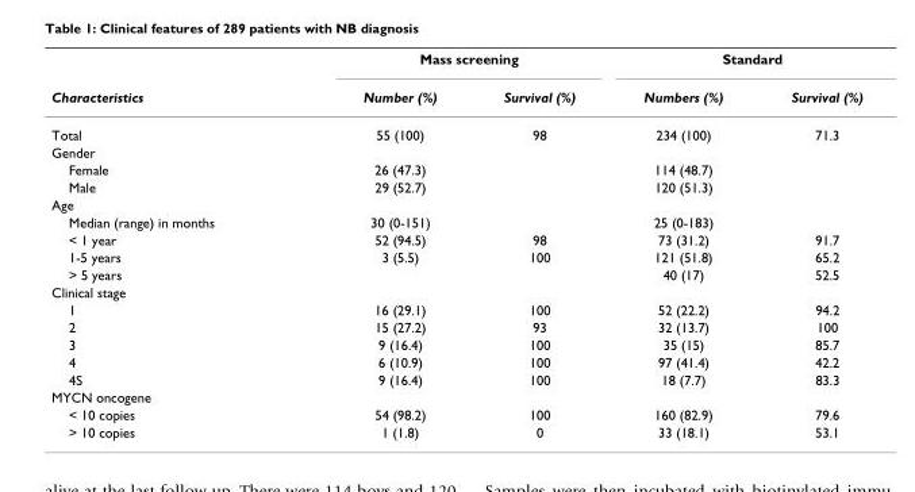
<table><thead><tr><td rowspan="2">Characteristics</td><td colspan="2">Mass screening</td><td colspan="2">Standard</td></tr><tr><td>Number (%)</td><td>Survival (%)</td><td>Numbers (%)</td><td>Survival (%)</td></tr></thead><tbody><tr><td>Total</td><td>55 (100)</td><td>98</td><td>234 (100)</td><td>71.3</td></tr><tr><td colspan="5">Gender</td></tr><tr><td>Female</td><td>26 (47.3)</td><td></td><td>114 (48.7)</td><td></td></tr><tr><td>Male</td><td>29 (52.7)</td><td></td><td>120 (51.3)</td><td></td></tr><tr><td colspan="5">Age</td></tr><tr><td>Median (range) in months</td><td>30 (0-151)</td><td></td><td>25 (0-183)</td><td></td></tr><tr><td>&lt; 1 year</td><td>52 (94.5)</td><td>98</td><td>73 (31.2)</td><td>91.7</td></tr><tr><td>1-5 years</td><td>3 (5.5)</td><td>100</td><td>121 (51.8)</td><td>65.2</td></tr><tr><td>&gt; 5 years</td><td></td><td></td><td>40 (17)</td><td>52.5</td></tr><tr><td colspan="5">Clinical stage</td></tr><tr><td>1</td><td>16 (29.1)</td><td>100</td><td>52 (22.2)</td><td>94.2</td></tr><tr><td>2</td><td>15 (27.2)</td><td>93</td><td>32 (13.7)</td><td>100</td></tr><tr><td>3</td><td>9 (16.4)</td><td>100</td><td>35 (15)</td><td>85.7</td></tr><tr><td>4</td><td>6 (10.9)</td><td>100</td><td>97 (41.4)</td><td>42.2</td></tr><tr><td>4S</td><td>9 (16.4)</td><td>100</td><td>18 (7.7)</td><td>83.3</td></tr><tr><td colspan="5">MYCN oncogene</td></tr><tr><td>&lt; 10 copies</td><td>54 (98.2)</td><td>100</td><td>160 (82.9)</td><td>79.6</td></tr><tr><td>&gt; 10 copies</td><td>1 (1.8)</td><td>0</td><td>33 (18.1)</td><td>53.1</td></tr></tbody></table>